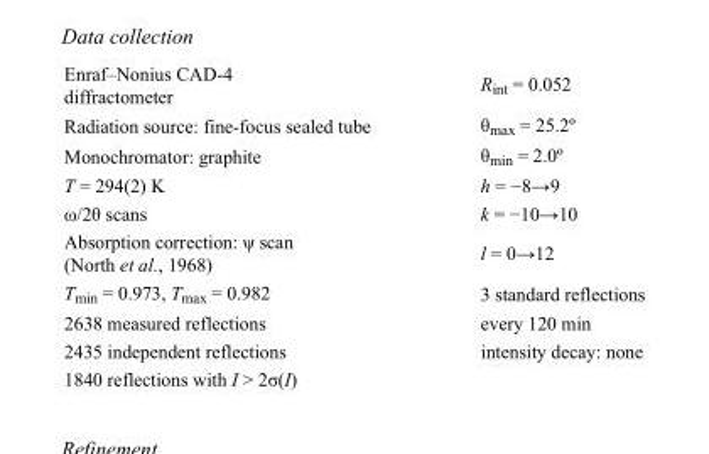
<table><tbody><tr><td>Enraf–Nonius CAD-4 diffractometer</td><td>R<sub>int</sub> = 0.052</td></tr><tr><td>Radiation source: fine-focus sealed tube</td><td>θ<sub>max</sub> = 25.2º</td></tr><tr><td>Monochromator: graphite</td><td>θ<sub>min</sub> = 2.0º</td></tr><tr><td>T = 294(2) K</td><td>h = −8→9</td></tr><tr><td>ω/2θ scans</td><td>k = −10→10</td></tr><tr><td>Absorption correction: ψ scan (North et al., 1968)</td><td>l = 0→12</td></tr><tr><td>T<sub>min</sub> = 0.973, T<sub>max</sub> = 0.982</td><td>3 standard reflections</td></tr><tr><td>2638 measured reflections</td><td>every 120 min</td></tr><tr><td>2435 independent reflections</td><td>intensity decay: none</td></tr><tr><td>1840 reflections with I &gt; 2σ(I)</td><td></td></tr></tbody></table>